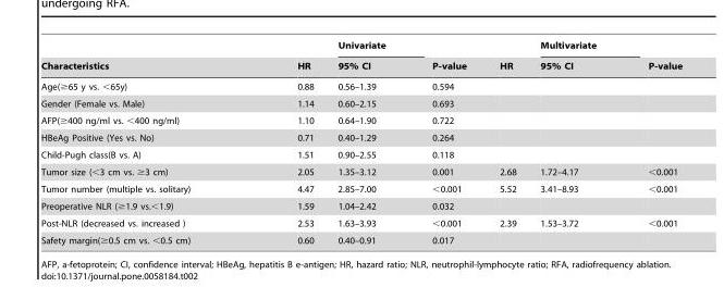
<table><thead><tr><td rowspan="2">Characteristics</td><td rowspan="2">HR</td><td rowspan="2">Univariate 95% CI</td><td rowspan="2">P-value</td><td rowspan="2">HR</td><td rowspan="2">Multivariate 95% CI</td><td rowspan="2">P-value</td></tr><tr></tr></thead><tbody><tr><td>Age(≥65 y vs. &lt;65y)</td><td>0.88</td><td>0.56–1.39</td><td>0.594</td><td></td><td></td><td></td></tr><tr><td>Gender (Female vs. Male)</td><td>1.14</td><td>0.60–2.15</td><td>0.693</td><td></td><td></td><td></td></tr><tr><td>AFP(≥400 ng/ml vs. &lt;400 ng/ml)</td><td>1.10</td><td>0.64–1.90</td><td>0.722</td><td></td><td></td><td></td></tr><tr><td>HBeAg Positive (Yes vs. No)</td><td>0.71</td><td>0.40–1.29</td><td>0.264</td><td></td><td></td><td></td></tr><tr><td>Child-Pugh class(B vs. A)</td><td>1.51</td><td>0.90–2.55</td><td>0.118</td><td></td><td></td><td></td></tr><tr><td>Tumor size (&lt;3 cm vs. ≥3 cm)</td><td>2.05</td><td>1.35–3.12</td><td>0.001</td><td>2.68</td><td>1.72–4.17</td><td>&lt;0.001</td></tr><tr><td>Tumor number (multiple vs. solitary)</td><td>4.47</td><td>2.85–7.00</td><td>&lt;0.001</td><td>5.52</td><td>3.41–8.93</td><td>&lt;0.001</td></tr><tr><td>Preoperative NLR (≥1.9 vs.&lt;1.9)</td><td>1.59</td><td>1.04–2.42</td><td>0.032</td><td></td><td></td><td></td></tr><tr><td>Post-NLR (decreased vs. increased )</td><td>2.53</td><td>1.63–3.93</td><td>&lt;0.001</td><td>2.39</td><td>1.53–3.72</td><td>&lt;0.001</td></tr><tr><td>Safety margin(≥0.5 cm vs. &lt;0.5 cm)</td><td>0.60</td><td>0.40–0.91</td><td>0.017</td><td></td><td></td><td></td></tr></tbody></table>